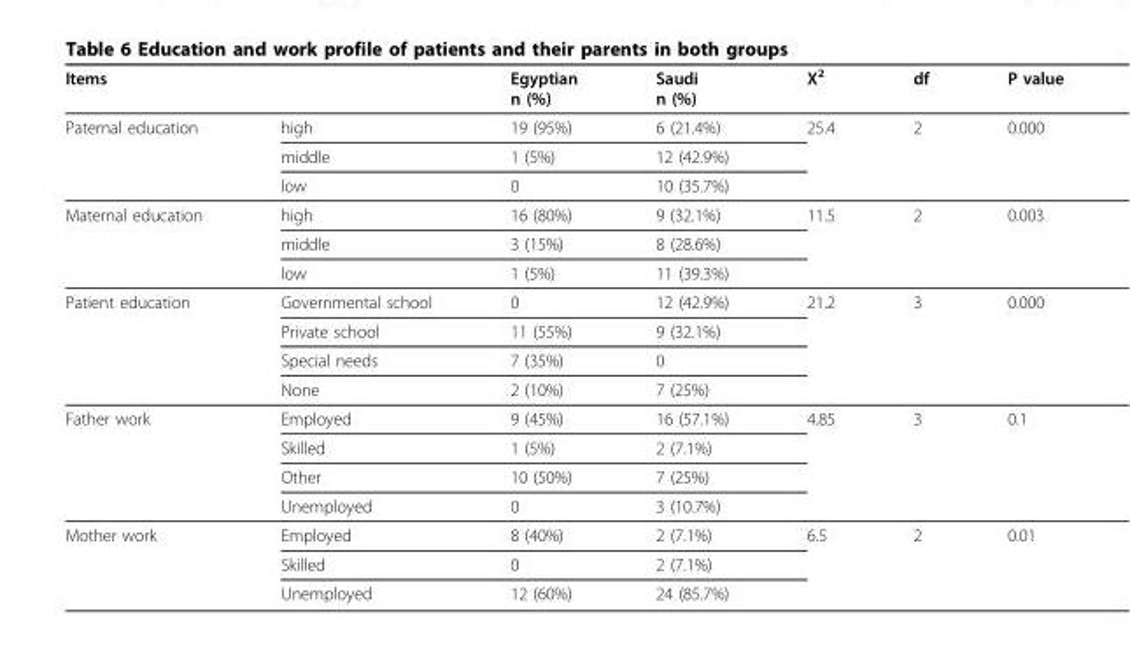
<table><thead><tr><td colspan="2">Items</td><td rowspan="2">Egyptian n (%) 19 (95%)</td><td rowspan="2">Saudi n (%) 6 (21.4%)</td><td rowspan="2">X2 25.4</td><td rowspan="2">df 2</td><td rowspan="2">P value 0.000</td></tr><tr><td>Paternal education</td><td>high</td></tr></thead><tbody><tr><td></td><td>middle</td><td>1 (5%)</td><td>12 (42.9%)</td><td></td><td></td><td></td></tr><tr><td></td><td>low</td><td>0</td><td>10 (35.7%)</td><td></td><td></td><td></td></tr><tr><td rowspan="3">Maternal education</td><td>high</td><td>16 (80%)</td><td>9 (32.1%)</td><td>11.5</td><td>2</td><td>0.003</td></tr><tr><td>middle</td><td>3 (15%)</td><td>8 (28.6%)</td><td></td><td></td><td></td></tr><tr><td>low</td><td>1 (5%)</td><td>11 (39.3%)</td><td></td><td></td><td></td></tr><tr><td rowspan="4">Patient education</td><td>Governmental school</td><td>0</td><td>12 (42.9%)</td><td>21.2</td><td>3</td><td>0.000</td></tr><tr><td>Private school</td><td>11 (55%)</td><td>9 (32.1%)</td><td></td><td></td><td></td></tr><tr><td>Special needs</td><td>7 (35%)</td><td>0</td><td></td><td></td><td></td></tr><tr><td>None</td><td>2 (10%)</td><td>7 (25%)</td><td></td><td></td><td></td></tr><tr><td rowspan="4">Father work</td><td>Employed</td><td>9 (45%)</td><td>16 (57.1%)</td><td>4.85</td><td>3</td><td>0.1</td></tr><tr><td>Skilled</td><td>1 (5%)</td><td>2 (7.1%)</td><td></td><td></td><td></td></tr><tr><td>Other</td><td>10 (50%)</td><td>7 (25%)</td><td></td><td></td><td></td></tr><tr><td>Unemployed</td><td>0</td><td>3 (10.7%)</td><td></td><td></td><td></td></tr><tr><td rowspan="3">Mother work</td><td>Employed</td><td>8 (40%)</td><td>2 (7.1%)</td><td>6.5</td><td>2</td><td>0.01</td></tr><tr><td>Skilled</td><td>0</td><td>2 (7.1%)</td><td></td><td></td><td></td></tr><tr><td>Unemployed</td><td>12 (60%)</td><td>24 (85.7%)</td><td></td><td></td><td></td></tr></tbody></table>